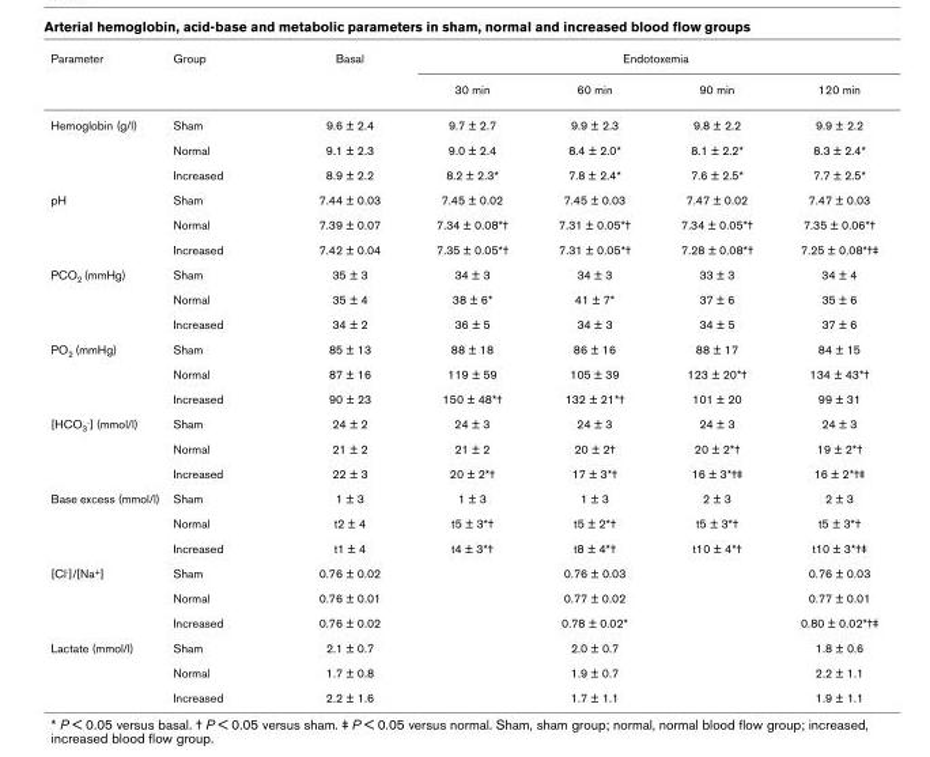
<table><thead><tr><td rowspan="2">Parameter</td><td rowspan="2">Group</td><td rowspan="2">Basal</td><td colspan="4">Endotoxemia</td></tr><tr><td>30 min</td><td>60 min</td><td>90 min</td><td>120 min</td></tr></thead><tbody><tr><td rowspan="3">Hemoglobin (g/l)</td><td>Sham</td><td>9.6 ± 2.4</td><td>9.7 ± 2.7</td><td>9.9 ± 2.3</td><td>9.8 ± 2.2</td><td>9.9 ± 2.2</td></tr><tr><td>Normal</td><td>9.1 ± 2.3</td><td>9.0 ± 2.4</td><td>8.4 ± 2.0*</td><td>8.1 ± 2.2*</td><td>8.3 ± 2.4*</td></tr><tr><td>Increased</td><td>8.9 ± 2.2</td><td>8.2 ± 2.3*</td><td>7.8 ± 2.4*</td><td>7.6 ± 2.5*</td><td>7.7 ± 2.5*</td></tr><tr><td rowspan="3">pH</td><td>Sham</td><td>7.44 ± 0.03</td><td>7.45 ± 0.02</td><td>7.45 ± 0.03</td><td>7.47 ± 0.02</td><td>7.47 ± 0.03</td></tr><tr><td>Normal</td><td>7.39 ± 0.07</td><td>7.34 ± 0.08*†</td><td>7.31 ± 0.05*†</td><td>7.34 ± 0.05*†</td><td>7.35 ± 0.06*†</td></tr><tr><td>Increased</td><td>7.42 ± 0.04</td><td>7.35 ± 0.05*†</td><td>7.31 ± 0.05*†</td><td>7.28 ± 0.08*†</td><td>7.25 ± 0.08*†‡</td></tr><tr><td rowspan="3">PCO2 (mmHg)</td><td>Sham</td><td>35 ± 3</td><td>34 ± 3</td><td>34 ± 3</td><td>33 ± 3</td><td>34 ± 4</td></tr><tr><td>Normal</td><td>35 ± 4</td><td>38 ± 6*</td><td>41 ± 7*</td><td>37 ± 6</td><td>35 ± 6</td></tr><tr><td>Increased</td><td>34 ± 2</td><td>36 ± 5</td><td>34 ± 3</td><td>34 ± 5</td><td>37 ± 6</td></tr><tr><td rowspan="3">PO2 (mmHg)</td><td>Sham</td><td>85 ± 13</td><td>88 ± 18</td><td>86 ± 16</td><td>88 ± 17</td><td>84 ± 15</td></tr><tr><td>Normal</td><td>87 ± 16</td><td>119 ± 59</td><td>105 ± 39</td><td>123 ± 20*†</td><td>134 ± 43*†</td></tr><tr><td>Increased</td><td>90 ± 23</td><td>150 ± 48*†</td><td>132 ± 21*†</td><td>101 ± 20</td><td>99 ± 31</td></tr><tr><td rowspan="3">[HCO3-] (mmol/l)</td><td>Sham</td><td>24 ± 2</td><td>24 ± 3</td><td>24 ± 3</td><td>24 ± 3</td><td>24 ± 3</td></tr><tr><td>Normal</td><td>21 ± 2</td><td>21 ± 2</td><td>20 ± 2†</td><td>20 ± 2*†</td><td>19 ± 2*†</td></tr><tr><td>Increased</td><td>22 ± 3</td><td>20 ± 2*†</td><td>17 ± 3*†</td><td>16 ± 3*†‡</td><td>16 ± 2*†‡</td></tr><tr><td rowspan="3">Base excess (mmol/l)</td><td>Sham</td><td>1 ± 3</td><td>1 ± 3</td><td>1 ± 3</td><td>2 ± 3</td><td>2 ± 3</td></tr><tr><td>Normal</td><td>t2 ± 4</td><td>t5 ± 3*†</td><td>t5 ± 2*†</td><td>t5 ± 3*†</td><td>t5 ± 3*†</td></tr><tr><td>Increased</td><td>t1 ± 4</td><td>t4 ± 3*†</td><td>t8 ± 4*†</td><td>t10 ± 4*†</td><td>t10 ± 3*†‡</td></tr><tr><td rowspan="3">[Cl-]/[Na+]</td><td>Sham</td><td>0.76 ± 0.02</td><td></td><td>0.76 ± 0.03</td><td></td><td>0.76 ± 0.03</td></tr><tr><td>Normal</td><td>0.76 ± 0.01</td><td></td><td>0.77 ± 0.02</td><td></td><td>0.77 ± 0.01</td></tr><tr><td>Increased</td><td>0.76 ± 0.02</td><td></td><td>0.78 ± 0.02*</td><td></td><td>0.80 ± 0.02*†‡</td></tr><tr><td rowspan="3">Lactate (mmol/l)</td><td>Sham</td><td>2.1 ± 0.7</td><td></td><td>2.0 ± 0.7</td><td></td><td>1.8 ± 0.6</td></tr><tr><td>Normal</td><td>1.7 ± 0.8</td><td></td><td>1.9 ± 0.7</td><td></td><td>2.2 ± 1.1</td></tr><tr><td>Increased</td><td>2.2 ± 1.6</td><td></td><td>1.7 ± 1.1</td><td></td><td>1.9 ± 1.1</td></tr></tbody></table>